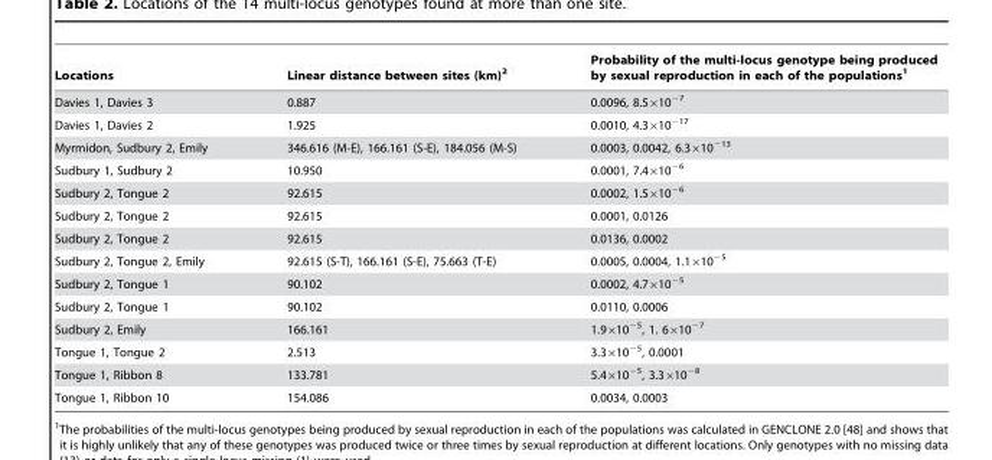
<table><thead><tr><td>Locations</td><td>Linear distance between sites (km)<sup>2</sup></td><td>Probability of the multi-locus genotype being produced by sexual reproduction in each of the populations<sup>1</sup></td></tr></thead><tbody><tr><td>Davies 1, Davies 3</td><td>0.887</td><td>0.0096, 8.5×10<sup>−7</sup></td></tr><tr><td>Davies 1, Davies 2</td><td>1.925</td><td>0.0010, 4.3×10<sup>−17</sup></td></tr><tr><td>Myrmidon, Sudbury 2, Emily</td><td>346.616 (M-E), 166.161 (S-E), 184.056 (M-S)</td><td>0.0003, 0.0042, 6.3×10<sup>−13</sup></td></tr><tr><td>Sudbury 1, Sudbury 2</td><td>10.950</td><td>0.0001, 7.4×10<sup>−6</sup></td></tr><tr><td>Sudbury 2, Tongue 2</td><td>92.615</td><td>0.0002, 1.5×10<sup>−6</sup></td></tr><tr><td>Sudbury 2, Tongue 2</td><td>92.615</td><td>0.0001, 0.0126</td></tr><tr><td>Sudbury 2, Tongue 2</td><td>92.615</td><td>0.0136, 0.0002</td></tr><tr><td>Sudbury 2, Tongue 2, Emily</td><td>92.615 (S-T), 166.161 (S-E), 75.663 (T-E)</td><td>0.0005, 0.0004, 1.1×10<sup>−5</sup></td></tr><tr><td>Sudbury 2, Tongue 1</td><td>90.102</td><td>0.0002, 4.7×10<sup>−5</sup></td></tr><tr><td>Sudbury 2, Tongue 1</td><td>90.102</td><td>0.0110, 0.0006</td></tr><tr><td>Sudbury 2, Emily</td><td>166.161</td><td>1.9×10<sup>−5</sup>, 1. 6×10<sup>−7</sup></td></tr><tr><td>Tongue 1, Tongue 2</td><td>2.513</td><td>3.3×10<sup>−5</sup>, 0.0001</td></tr><tr><td>Tongue 1, Ribbon 8</td><td>133.781</td><td>5.4×10<sup>−5</sup>, 3.3×10<sup>−8</sup></td></tr><tr><td>Tongue 1, Ribbon 10</td><td>154.086</td><td>0.0034, 0.0003</td></tr></tbody></table>